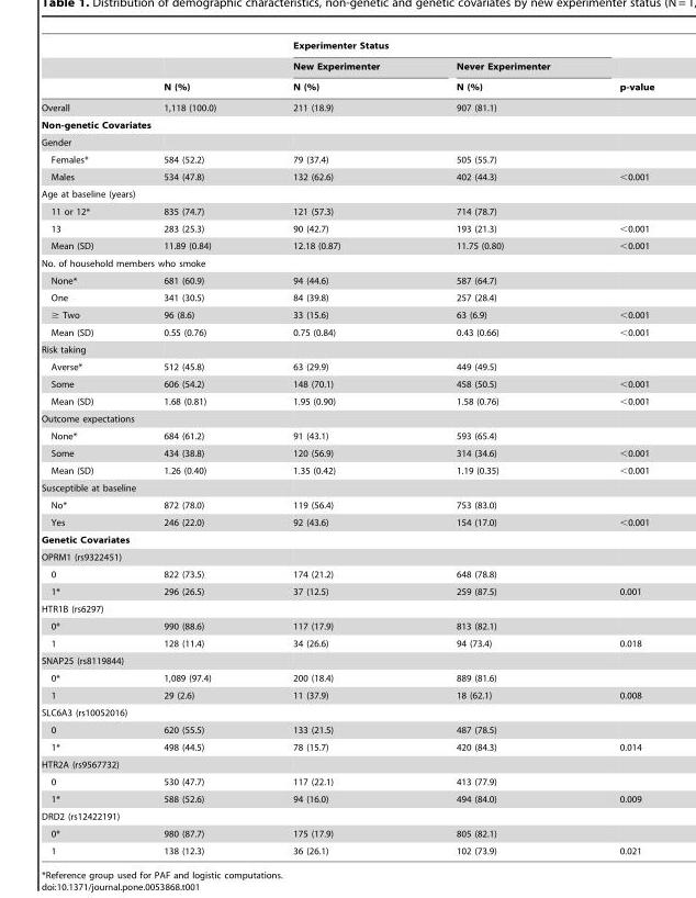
<table><thead><tr><td rowspan="3"></td><td rowspan="3">N (%)</td><td colspan="2">Experimenter Status</td><td rowspan="3">p-value</td></tr><tr><td rowspan="2">New Experimenter N (%)</td><td rowspan="2">Never Experimenter N (%)</td></tr><tr></tr></thead><tbody><tr><td>Overall</td><td>1,118 (100.0)</td><td>211 (18.9)</td><td>907 (81.1)</td><td></td></tr><tr><td colspan="5">Non-genetic Covariates</td></tr><tr><td colspan="5">Gender</td></tr><tr><td>Females*</td><td>584 (52.2)</td><td>79 (37.4)</td><td>505 (55.7)</td><td></td></tr><tr><td>Males</td><td>534 (47.8)</td><td>132 (62.6)</td><td>402 (44.3)</td><td>&lt;0.001</td></tr><tr><td colspan="5">Age at baseline (years)</td></tr><tr><td>11 or 12*</td><td>835 (74.7)</td><td>121 (57.3)</td><td>714 (78.7)</td><td></td></tr><tr><td>13</td><td>283 (25.3)</td><td>90 (42.7)</td><td>193 (21.3)</td><td>&lt;0.001</td></tr><tr><td>Mean (SD)</td><td>11.89 (0.84)</td><td>12.18 (0.87)</td><td>11.75 (0.80)</td><td>&lt;0.001</td></tr><tr><td colspan="5">No. of household members who smoke</td></tr><tr><td>None*</td><td>681 (60.9)</td><td>94 (44.6)</td><td>587 (64.7)</td><td></td></tr><tr><td>One</td><td>341 (30.5)</td><td>84 (39.8)</td><td>257 (28.4)</td><td></td></tr><tr><td>≥ Two</td><td>96 (8.6)</td><td>33 (15.6)</td><td>63 (6.9)</td><td>&lt;0.001</td></tr><tr><td>Mean (SD)</td><td>0.55 (0.76)</td><td>0.75 (0.84)</td><td>0.43 (0.66)</td><td>&lt;0.001</td></tr><tr><td colspan="5">Risk taking</td></tr><tr><td>Averse*</td><td>512 (45.8)</td><td>63 (29.9)</td><td>449 (49.5)</td><td></td></tr><tr><td>Some</td><td>606 (54.2)</td><td>148 (70.1)</td><td>458 (50.5)</td><td>&lt;0.001</td></tr><tr><td>Mean (SD)</td><td>1.68 (0.81)</td><td>1.95 (0.90)</td><td>1.58 (0.76)</td><td>&lt;0.001</td></tr><tr><td colspan="5">Outcome expectations</td></tr><tr><td>None*</td><td>684 (61.2)</td><td>91 (43.1)</td><td>593 (65.4)</td><td></td></tr><tr><td>Some</td><td>434 (38.8)</td><td>120 (56.9)</td><td>314 (34.6)</td><td>&lt;0.001</td></tr><tr><td>Mean (SD)</td><td>1.26 (0.40)</td><td>1.35 (0.42)</td><td>1.19 (0.35)</td><td>&lt;0.001</td></tr><tr><td colspan="5">Susceptible at baseline</td></tr><tr><td>No*</td><td>872 (78.0)</td><td>119 (56.4)</td><td>753 (83.0)</td><td></td></tr><tr><td>Yes</td><td>246 (22.0)</td><td>92 (43.6)</td><td>154 (17.0)</td><td>&lt;0.001</td></tr><tr><td colspan="5">Genetic Covariates</td></tr><tr><td colspan="5">OPRM1 (rs9322451)</td></tr><tr><td>0</td><td>822 (73.5)</td><td>174 (21.2)</td><td>648 (78.8)</td><td></td></tr><tr><td>1*</td><td>296 (26.5)</td><td>37 (12.5)</td><td>259 (87.5)</td><td>0.001</td></tr><tr><td colspan="5">HTR1B (rs6297)</td></tr><tr><td>0*</td><td>990 (88.6)</td><td>117 (17.9)</td><td>813 (82.1)</td><td></td></tr><tr><td>1</td><td>128 (11.4)</td><td>34 (26.6)</td><td>94 (73.4)</td><td>0.018</td></tr><tr><td colspan="5">SNAP25 (rs8119844)</td></tr><tr><td>0*</td><td>1,089 (97.4)</td><td>200 (18.4)</td><td>889 (81.6)</td><td></td></tr><tr><td>1</td><td>29 (2.6)</td><td>11 (37.9)</td><td>18 (62.1)</td><td>0.008</td></tr><tr><td colspan="5">SLC6A3 (rs10052016)</td></tr><tr><td>0</td><td>620 (55.5)</td><td>133 (21.5)</td><td>487 (78.5)</td><td></td></tr><tr><td>1*</td><td>498 (44.5)</td><td>78 (15.7)</td><td>420 (84.3)</td><td>0.014</td></tr><tr><td colspan="5">HTR2A (rs9567732)</td></tr><tr><td>0</td><td>530 (47.7)</td><td>117 (22.1)</td><td>413 (77.9)</td><td></td></tr><tr><td>1*</td><td>588 (52.6)</td><td>94 (16.0)</td><td>494 (84.0)</td><td>0.009</td></tr><tr><td colspan="5">DRD2 (rs12422191)</td></tr><tr><td>0*</td><td>980 (87.7)</td><td>175 (17.9)</td><td>805 (82.1)</td><td></td></tr><tr><td>1</td><td>138 (12.3)</td><td>36 (26.1)</td><td>102 (73.9)</td><td>0.021</td></tr></tbody></table>